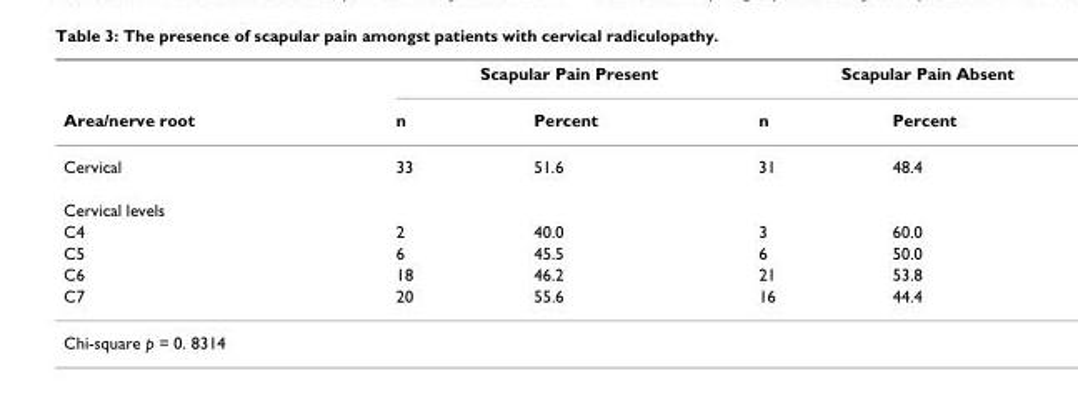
<table><thead><tr><td rowspan="2">Area/nerve root</td><td colspan="2">Scapular Pain Present</td><td colspan="2">Scapular Pain Absent</td></tr><tr><td>n</td><td>Percent</td><td>n</td><td>Percent</td></tr></thead><tbody><tr><td>Cervical</td><td>33</td><td>51.6</td><td>31</td><td>48.4</td></tr><tr><td colspan="5">Cervical levels</td></tr><tr><td>C4</td><td>2</td><td>40.0</td><td>3</td><td>60.0</td></tr><tr><td>C5</td><td>6</td><td>45.5</td><td>6</td><td>50.0</td></tr><tr><td>C6</td><td>18</td><td>46.2</td><td>21</td><td>53.8</td></tr><tr><td>C7</td><td>20</td><td>55.6</td><td>16</td><td>44.4</td></tr><tr><td>Chi-square p = 0. 8314</td><td></td><td></td><td></td><td></td></tr></tbody></table>